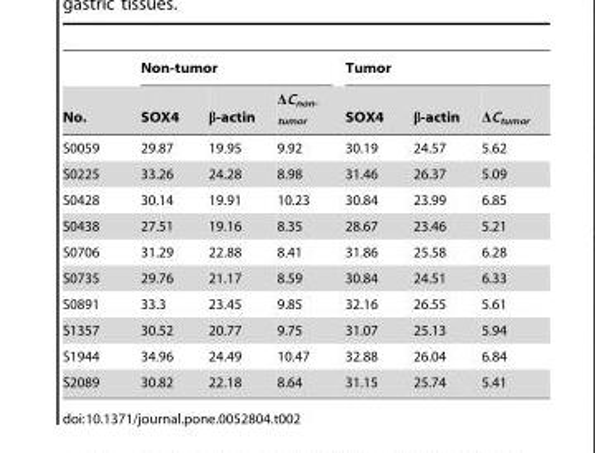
<table><thead><tr><td rowspan="2">No.</td><td colspan="3">Non-tumor</td><td colspan="3">Tumor</td></tr><tr><td>SOX4</td><td>β-actin</td><td>ΔC<sub>non- tumor</sub></td><td>SOX4</td><td>β-actin</td><td>ΔC<sub>tumor</sub></td></tr></thead><tbody><tr><td>S0059</td><td>29.87</td><td>19.95</td><td>9.92</td><td>30.19</td><td>24.57</td><td>5.62</td></tr><tr><td>S0225</td><td>33.26</td><td>24.28</td><td>8.98</td><td>31.46</td><td>26.37</td><td>5.09</td></tr><tr><td>S0428</td><td>30.14</td><td>19.91</td><td>10.23</td><td>30.84</td><td>23.99</td><td>6.85</td></tr><tr><td>S0438</td><td>27.51</td><td>19.16</td><td>8.35</td><td>28.67</td><td>23.46</td><td>5.21</td></tr><tr><td>S0706</td><td>31.29</td><td>22.88</td><td>8.41</td><td>31.86</td><td>25.58</td><td>6.28</td></tr><tr><td>S0735</td><td>29.76</td><td>21.17</td><td>8.59</td><td>30.84</td><td>24.51</td><td>6.33</td></tr><tr><td>S0891</td><td>33.3</td><td>23.45</td><td>9.85</td><td>32.16</td><td>26.55</td><td>5.61</td></tr><tr><td>S1357</td><td>30.52</td><td>20.77</td><td>9.75</td><td>31.07</td><td>25.13</td><td>5.94</td></tr><tr><td>S1944</td><td>34.96</td><td>24.49</td><td>10.47</td><td>32.88</td><td>26.04</td><td>6.84</td></tr><tr><td>S2089</td><td>30.82</td><td>22.18</td><td>8.64</td><td>31.15</td><td>25.74</td><td>5.41</td></tr></tbody></table>